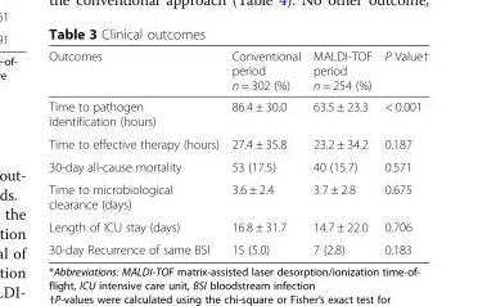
<table><thead><tr><td>Outcomes</td><td>Conventional period n = 302 (%)</td><td>MALDI-TOF period n = 254 (%)</td><td>P Value†</td></tr></thead><tbody><tr><td>Time to pathogen identification (hours)</td><td>86.4 ± 30.0</td><td>63.5 ± 23.3</td><td>&lt; 0.001</td></tr><tr><td>Time to effective therapy (hours)</td><td>27.4 ± 35.8</td><td>23.2 ± 34.2</td><td>0.187</td></tr><tr><td>30-day all-cause mortality</td><td>53 (17.5)</td><td>40 (15.7)</td><td>0.571</td></tr><tr><td>Time to microbiological clearance (days)</td><td>3.6 ± 2.4</td><td>3.7 ± 2.8</td><td>0.675</td></tr><tr><td>Length of ICU stay (days)</td><td>16.8 ± 31.7</td><td>14.7 ± 22.0</td><td>0.706</td></tr><tr><td>30-day Recurrence of same BSI</td><td>15 (5.0)</td><td>7 (2.8)</td><td>0.183</td></tr></tbody></table>